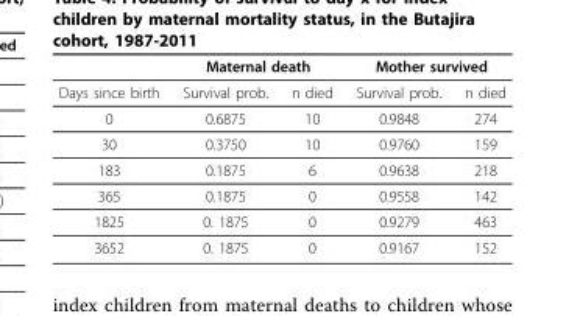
<table><thead><tr><td rowspan="2">Days since birth</td><td colspan="2">Maternal death</td><td colspan="2">Mother survived</td></tr><tr><td>Survival prob.</td><td>n died</td><td>Survival prob.</td><td>n died</td></tr></thead><tbody><tr><td>0</td><td>0.6875</td><td>10</td><td>0.9848</td><td>274</td></tr><tr><td>30</td><td>0.3750</td><td>10</td><td>0.9760</td><td>159</td></tr><tr><td>183</td><td>0.1875</td><td>6</td><td>0.9638</td><td>218</td></tr><tr><td>365</td><td>0.1875</td><td>0</td><td>0.9558</td><td>142</td></tr><tr><td>1825</td><td>0. 1875</td><td>0</td><td>0.9279</td><td>463</td></tr><tr><td>3652</td><td>0. 1875</td><td>0</td><td>0.9167</td><td>152</td></tr></tbody></table>